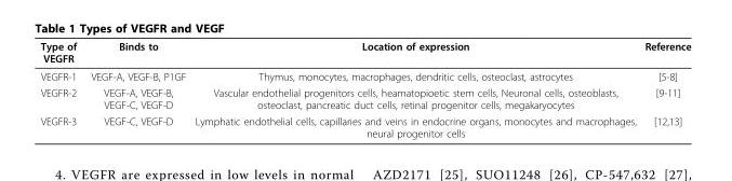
<table><thead><tr><td>Type of VEGFR</td><td>Binds to</td><td>Location of expression</td><td>Reference</td></tr></thead><tbody><tr><td>VEGFR-1</td><td>VEGF-A, VEGF-B, P1GF</td><td>Thymus, monocytes, macrophages, dendritic cells, osteoclast, astrocytes</td><td>[5-8]</td></tr><tr><td>VEGFR-2</td><td>VEGF-A, VEGF-B, VEGF-C, VEGF-D</td><td>Vascular endothelial progenitors cells, heamatopioetic stem cells, Neuronal cells, osteoblasts, osteoclast, pancreatic duct cells, retinal progenitor cells, megakaryocytes</td><td>[9-11]</td></tr><tr><td>VEGFR-3</td><td>VEGF-C, VEGF-D</td><td>Lymphatic endothelial cells, capillaries and veins in endocrine organs, monocytes and macrophages, neural progenitor cells</td><td>[12,13]</td></tr></tbody></table>